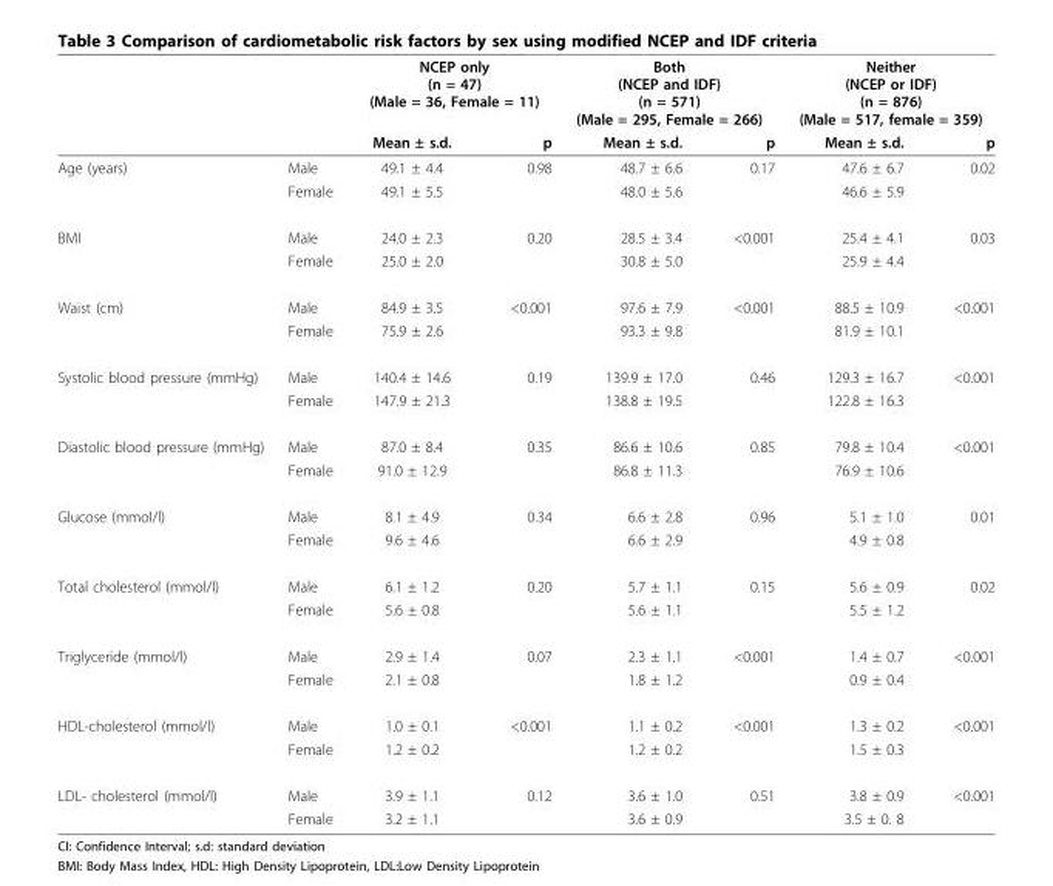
<table><thead><tr><td rowspan="2"></td><td rowspan="2"></td><td colspan="2">NCEP only (n = 47) (Male = 36, Female = 11)</td><td colspan="2">Both (NCEP and IDF) (n = 571) (Male = 295, Female = 266)</td><td colspan="2">Neither (NCEP or IDF) (n = 876) (Male = 517, female = 359)</td></tr><tr><td>Mean ± s.d.</td><td>p</td><td>Mean ± s.d.</td><td>p</td><td>Mean ± s.d.</td><td>p</td></tr></thead><tbody><tr><td rowspan="2">Age (years)</td><td>Male</td><td>49.1 ± 4.4</td><td>0.98</td><td>48.7 ± 6.6</td><td>0.17</td><td>47.6 ± 6.7</td><td>0.02</td></tr><tr><td>Female</td><td>49.1 ± 5.5</td><td></td><td>48.0 ± 5.6</td><td></td><td>46.6 ± 5.9</td><td></td></tr><tr><td rowspan="2">BMI</td><td>Male</td><td>24.0 ± 2.3</td><td>0.20</td><td>28.5 ± 3.4</td><td>&lt;0.001</td><td>25.4 ± 4.1</td><td>0.03</td></tr><tr><td>Female</td><td>25.0 ± 2.0</td><td></td><td>30.8 ± 5.0</td><td></td><td>25.9 ± 4.4</td><td></td></tr><tr><td rowspan="2">Waist (cm)</td><td>Male</td><td>84.9 ± 3.5</td><td>&lt;0.001</td><td>97.6 ± 7.9</td><td>&lt;0.001</td><td>88.5 ± 10.9</td><td>&lt;0.001</td></tr><tr><td>Female</td><td>75.9 ± 2.6</td><td></td><td>93.3 ± 9.8</td><td></td><td>81.9 ± 10.1</td><td></td></tr><tr><td rowspan="2">Systolic blood pressure (mmHg)</td><td>Male</td><td>140.4 ± 14.6</td><td>0.19</td><td>139.9 ± 17.0</td><td>0.46</td><td>129.3 ± 16.7</td><td>&lt;0.001</td></tr><tr><td>Female</td><td>147.9 ± 21.3</td><td></td><td>138.8 ± 19.5</td><td></td><td>122.8 ± 16.3</td><td></td></tr><tr><td rowspan="2">Diastolic blood pressure (mmHg)</td><td>Male</td><td>87.0 ± 8.4</td><td>0.35</td><td>86.6 ± 10.6</td><td>0.85</td><td>79.8 ± 10.4</td><td>&lt;0.001</td></tr><tr><td>Female</td><td>91.0 ± 12.9</td><td></td><td>86.8 ± 11.3</td><td></td><td>76.9 ± 10.6</td><td></td></tr><tr><td rowspan="2">Glucose (mmol/l)</td><td>Male</td><td>8.1 ± 4.9</td><td>0.34</td><td>6.6 ± 2.8</td><td>0.96</td><td>5.1 ± 1.0</td><td>0.01</td></tr><tr><td>Female</td><td>9.6 ± 4.6</td><td></td><td>6.6 ± 2.9</td><td></td><td>4.9 ± 0.8</td><td></td></tr><tr><td rowspan="2">Total cholesterol (mmol/l)</td><td>Male</td><td>6.1 ± 1.2</td><td>0.20</td><td>5.7 ± 1.1</td><td>0.15</td><td>5.6 ± 0.9</td><td>0.02</td></tr><tr><td>Female</td><td>5.6 ± 0.8</td><td></td><td>5.6 ± 1.1</td><td></td><td>5.5 ± 1.2</td><td></td></tr><tr><td rowspan="2">Triglyceride (mmol/l)</td><td>Male</td><td>2.9 ± 1.4</td><td>0.07</td><td>2.3 ± 1.1</td><td>&lt;0.001</td><td>1.4 ± 0.7</td><td>&lt;0.001</td></tr><tr><td>Female</td><td>2.1 ± 0.8</td><td></td><td>1.8 ± 1.2</td><td></td><td>0.9 ± 0.4</td><td></td></tr><tr><td rowspan="2">HDL-cholesterol (mmol/l)</td><td>Male</td><td>1.0 ± 0.1</td><td>&lt;0.001</td><td>1.1 ± 0.2</td><td>&lt;0.001</td><td>1.3 ± 0.2</td><td>&lt;0.001</td></tr><tr><td>Female</td><td>1.2 ± 0.2</td><td></td><td>1.2 ± 0.2</td><td></td><td>1.5 ± 0.3</td><td></td></tr><tr><td rowspan="2">LDL- cholesterol (mmol/l)</td><td>Male</td><td>3.9 ± 1.1</td><td>0.12</td><td>3.6 ± 1.0</td><td>0.51</td><td>3.8 ± 0.9</td><td>&lt;0.001</td></tr><tr><td>Female</td><td>3.2 ± 1.1</td><td></td><td>3.6 ± 0.9</td><td></td><td>3.5 ± 0. 8</td><td></td></tr></tbody></table>